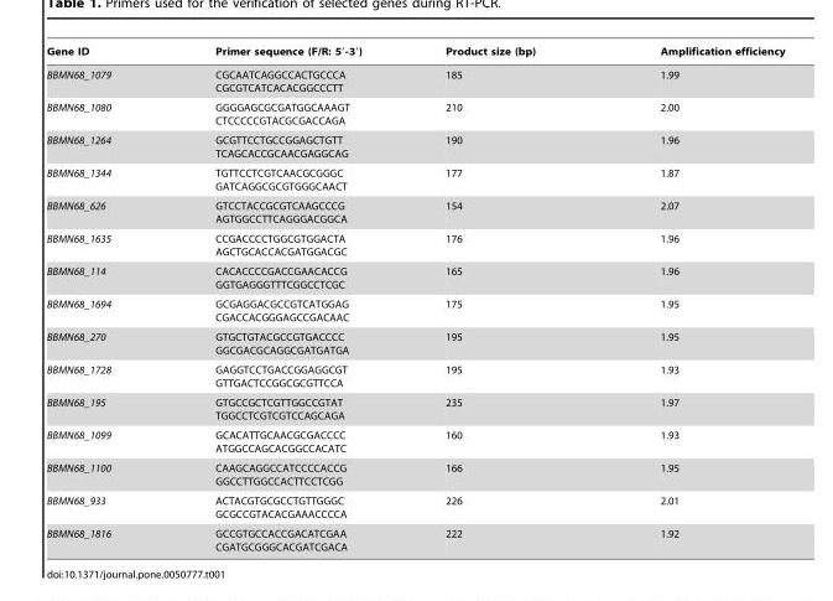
<table><thead><tr><td>Gene ID</td><td>Primer sequence (F/R: 5′-3′)</td><td>Product size (bp)</td><td>Amplification efficiency</td></tr></thead><tbody><tr><td>BBMN68_1079</td><td>CGCAATCAGGCCACTGCCCA CGCGTCATCACACGGCCCTT</td><td>185</td><td>1.99</td></tr><tr><td>BBMN68_1080</td><td>GGGGAGCGCGATGGCAAAGT CTCCCCCGTACGCGACCAGA</td><td>210</td><td>2.00</td></tr><tr><td>BBMN68_1264</td><td>GCGTTCCTGCCGGAGCTGTT TCAGCACCGCAACGAGGCAG</td><td>190</td><td>1.96</td></tr><tr><td>BBMN68_1344</td><td>TGTTCCTCGTCAACGCGGGC GATCAGGCGCGTGGGCAACT</td><td>177</td><td>1.87</td></tr><tr><td>BBMN68_626</td><td>GTCCTACCGCGTCAAGCCCG AGTGGCCTTCAGGGACGGCA</td><td>154</td><td>2.07</td></tr><tr><td>BBMN68_1635</td><td>CCGACCCCTGGCGTGGACTA AGCTGCACCACGATGGACGC</td><td>176</td><td>1.96</td></tr><tr><td>BBMN68_114</td><td>CACACCCCGACCGAACACCG GGTGAGGGTTTCGGCCTCGC</td><td>165</td><td>1.96</td></tr><tr><td>BBMN68_1694</td><td>GCGAGGACGCCGTCATGGAG CGACCACGGGAGCCGACAAC</td><td>175</td><td>1.95</td></tr><tr><td>BBMN68_270</td><td>GTGCTGTACGCCGTGACCCC GGCGACGCAGGCGATGATGA</td><td>195</td><td>1.95</td></tr><tr><td>BBMN68_1728</td><td>GAGGTCCTGACCGGAGGCGT GTTGACTCCGGCGCGTTCCA</td><td>195</td><td>1.93</td></tr><tr><td>BBMN68_195</td><td>GTGCCGCTCGTTGGCCGTAT TGGCCTCGTCGTCCAGCAGA</td><td>235</td><td>1.97</td></tr><tr><td>BBMN68_1099</td><td>GCACATTGCAACGCGACCCC ATGGCCAGCACGGCCACATC</td><td>160</td><td>1.93</td></tr><tr><td>BBMN68_1100</td><td>CAAGCAGGCCATCCCCACCG GGCCTTGGCCACTTCCTCGG</td><td>166</td><td>1.95</td></tr><tr><td>BBMN68_933</td><td>ACTACGTGCGCCTGTTGGGC GCGCCGTACACGAAACCCCA</td><td>226</td><td>2.01</td></tr><tr><td>BBMN68_1816</td><td>GCCGTGCCACCGACATCGAA CGATGCGGGCACGATCGACA</td><td>222</td><td>1.92</td></tr></tbody></table>